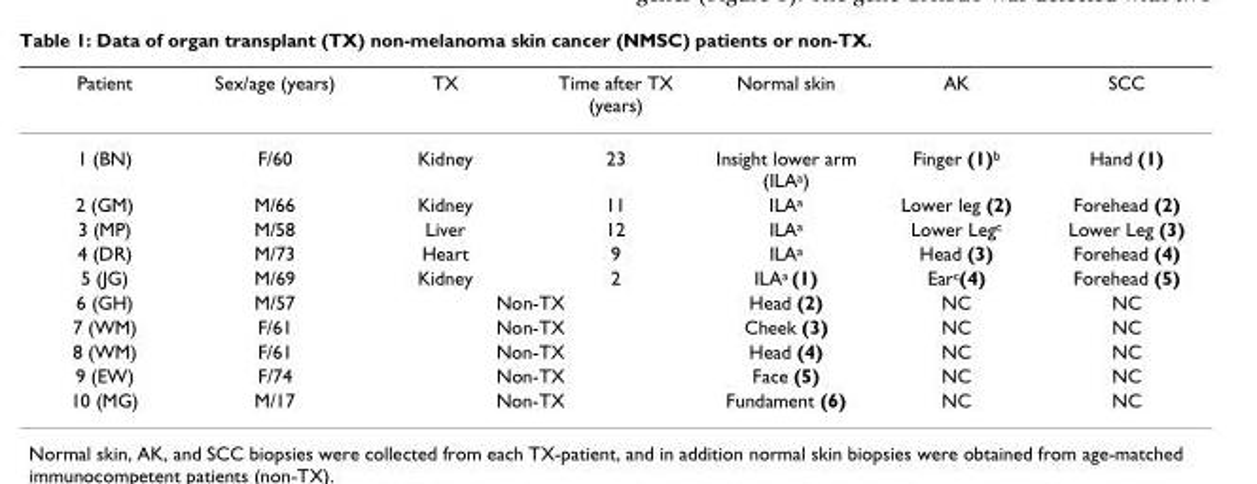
<table><thead><tr><td>Patient</td><td>Sex/age (years)</td><td>TX</td><td>Time after TX (years)</td><td>Normal skin</td><td>AK</td><td>SCC</td></tr></thead><tbody><tr><td>1 (BN)</td><td>F/60</td><td>Kidney</td><td>23</td><td>Insight lower arm (ILA<sup>a</sup>)</td><td>Finger (1)<sup>b</sup></td><td>Hand (1)</td></tr><tr><td>2 (GM)</td><td>M/66</td><td>Kidney</td><td>11</td><td>ILA<sup>a</sup></td><td>Lower leg (2)</td><td>Forehead (2)</td></tr><tr><td>3 (MP)</td><td>M/58</td><td>Liver</td><td>12</td><td>ILA<sup>a</sup></td><td>Lower Leg<sup>c</sup></td><td>Lower Leg (3)</td></tr><tr><td>4 (DR)</td><td>M/73</td><td>Heart</td><td>9</td><td>ILA<sup>a</sup></td><td>Head (3)</td><td>Forehead (4)</td></tr><tr><td>5 (JG)</td><td>M/69</td><td>Kidney</td><td>2</td><td>ILA<sup>a</sup> (1)</td><td>Ear<sup>c</sup>(4)</td><td>Forehead (5)</td></tr><tr><td>6 (GH)</td><td>M/57</td><td colspan="2">Non-TX</td><td>Head (2)</td><td>NC</td><td>NC</td></tr><tr><td>7 (WM)</td><td>F/61</td><td colspan="2">Non-TX</td><td>Cheek (3)</td><td>NC</td><td>NC</td></tr><tr><td>8 (WM)</td><td>F/61</td><td colspan="2">Non-TX</td><td>Head (4)</td><td>NC</td><td>NC</td></tr><tr><td>9 (EW)</td><td>F/74</td><td colspan="2">Non-TX</td><td>Face (5)</td><td>NC</td><td>NC</td></tr><tr><td>10 (MG)</td><td>M/17</td><td colspan="2">Non-TX</td><td>Fundament (6)</td><td>NC</td><td>NC</td></tr></tbody></table>